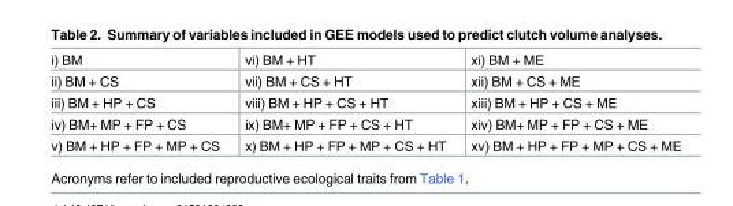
<table><tbody><tr><td>i) BM</td><td>vi) BM + HT</td><td>xi) BM + ME</td></tr><tr><td>ii) BM + CS</td><td>vii) BM + CS + HT</td><td>xii) BM + CS + ME</td></tr><tr><td>iii) BM + HP + CS</td><td>viii) BM + HP + CS + HT</td><td>xiii) BM + HP + CS + ME</td></tr><tr><td>iv) BM+ MP + FP + CS</td><td>ix) BM+ MP + FP + CS + HT</td><td>xiv) BM+ MP + FP + CS + ME</td></tr><tr><td>v) BM + HP + FP + MP + CS</td><td>x) BM + HP + FP + MP + CS + HT</td><td>xv) BM + HP + FP + MP + CS + ME</td></tr></tbody></table>